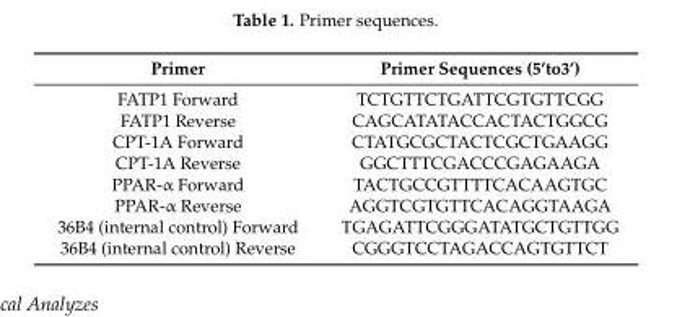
<table><thead><tr><td>Primer</td><td>Primer Sequences (5’to3’)</td></tr></thead><tbody><tr><td>FATP1 Forward</td><td>TCTGTTCTGATTCGTGTTCGG</td></tr><tr><td>FATP1 Reverse</td><td>CAGCATATACCACTACTGGCG</td></tr><tr><td>CPT-1A Forward</td><td>CTATGCGCTACTCGCTGAAGG</td></tr><tr><td>CPT-1A Reverse</td><td>GGCTTTCGACCCGAGAAGA</td></tr><tr><td>PPAR-α Forward</td><td>TACTGCCGTTTTCACAAGTGC</td></tr><tr><td>PPAR-α Reverse</td><td>AGGTCGTGTTCACAGGTAAGA</td></tr><tr><td>36B4 (internal control) Forward</td><td>TGAGATTCGGGATATGCTGTTGG</td></tr><tr><td>36B4 (internal control) Reverse</td><td>CGGGTCCTAGACCAGTGTTCT</td></tr></tbody></table>